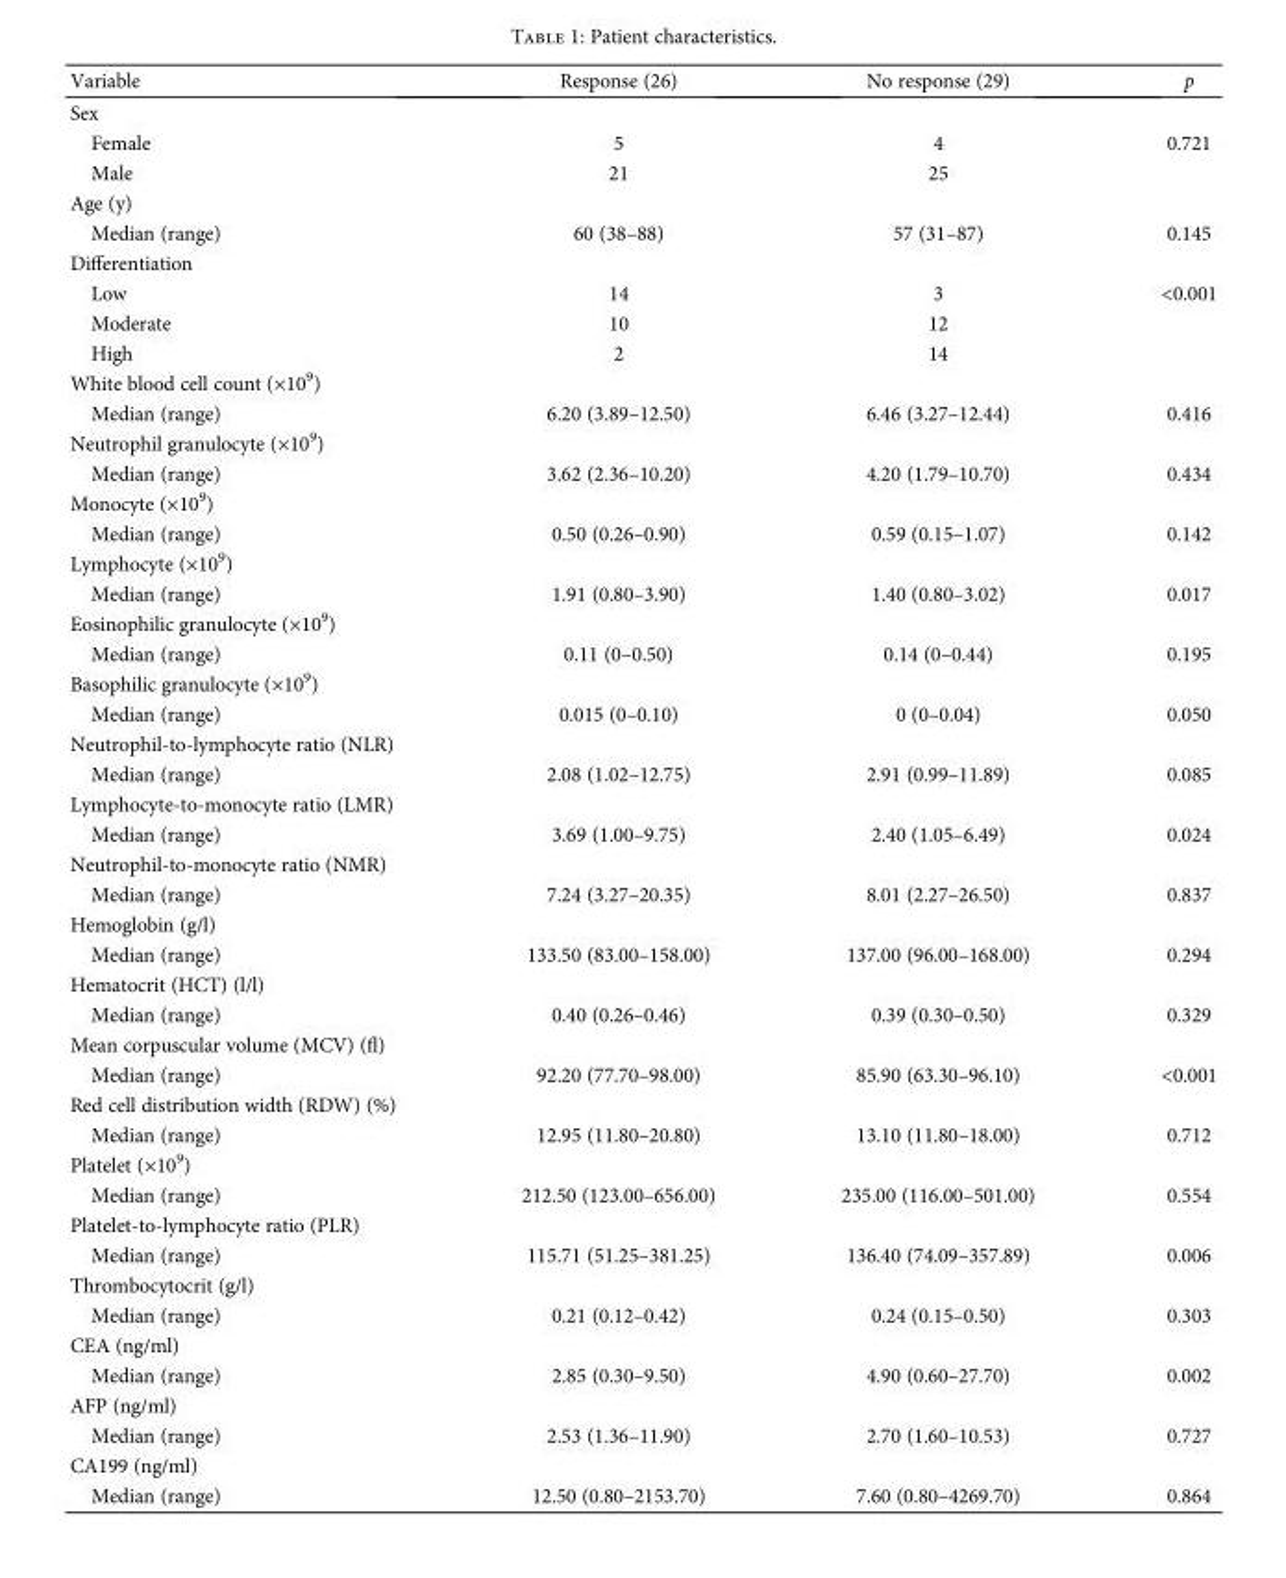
<table><thead><tr><td>Variable</td><td>Response (26)</td><td>No response (29)</td><td>p</td></tr></thead><tbody><tr><td colspan="4">Sex</td></tr><tr><td>Female</td><td>5</td><td>4</td><td>0.721</td></tr><tr><td>Male</td><td>21</td><td>25</td><td></td></tr><tr><td colspan="4">Age (y)</td></tr><tr><td>Median (range)</td><td>60 (38–88)</td><td>57 (31–87)</td><td>0.145</td></tr><tr><td colspan="4">Differentiation</td></tr><tr><td>Low</td><td>14</td><td>3</td><td>&lt;0.001</td></tr><tr><td>Moderate</td><td>10</td><td>12</td><td></td></tr><tr><td>High</td><td>2</td><td>14</td><td></td></tr><tr><td colspan="4">White blood cell count (×10<sup>9</sup>)</td></tr><tr><td>Median (range)</td><td>6.20 (3.89–12.50)</td><td>6.46 (3.27–12.44)</td><td>0.416</td></tr><tr><td colspan="4">Neutrophil granulocyte (×10<sup>9</sup>)</td></tr><tr><td>Median (range)</td><td>3.62 (2.36–10.20)</td><td>4.20 (1.79–10.70)</td><td>0.434</td></tr><tr><td colspan="4">Monocyte (×10<sup>9</sup>)</td></tr><tr><td>Median (range)</td><td>0.50 (0.26–0.90)</td><td>0.59 (0.15–1.07)</td><td>0.142</td></tr><tr><td colspan="4">Lymphocyte (×10<sup>9</sup>)</td></tr><tr><td>Median (range)</td><td>1.91 (0.80–3.90)</td><td>1.40 (0.80–3.02)</td><td>0.017</td></tr><tr><td colspan="4">Eosinophilic granulocyte (×10<sup>9</sup>)</td></tr><tr><td>Median (range)</td><td>0.11 (0–0.50)</td><td>0.14 (0–0.44)</td><td>0.195</td></tr><tr><td colspan="4">Basophilic granulocyte (×10<sup>9</sup>)</td></tr><tr><td>Median (range)</td><td>0.015 (0–0.10)</td><td>0 (0–0.04)</td><td>0.050</td></tr><tr><td colspan="4">Neutrophil-to-lymphocyte ratio (NLR)</td></tr><tr><td>Median (range)</td><td>2.08 (1.02–12.75)</td><td>2.91 (0.99–11.89)</td><td>0.085</td></tr><tr><td colspan="4">Lymphocyte-to-monocyte ratio (LMR)</td></tr><tr><td>Median (range)</td><td>3.69 (1.00–9.75)</td><td>2.40 (1.05–6.49)</td><td>0.024</td></tr><tr><td colspan="4">Neutrophil-to-monocyte ratio (NMR)</td></tr><tr><td>Median (range)</td><td>7.24 (3.27–20.35)</td><td>8.01 (2.27–26.50)</td><td>0.837</td></tr><tr><td colspan="4">Hemoglobin (g/l)</td></tr><tr><td>Median (range)</td><td>133.50 (83.00–158.00)</td><td>137.00 (96.00–168.00)</td><td>0.294</td></tr><tr><td colspan="4">Hematocrit (HCT) (l/l)</td></tr><tr><td>Median (range)</td><td>0.40 (0.26–0.46)</td><td>0.39 (0.30–0.50)</td><td>0.329</td></tr><tr><td colspan="4">Mean corpuscular volume (MCV) (fl)</td></tr><tr><td>Median (range)</td><td>92.20 (77.70–98.00)</td><td>85.90 (63.30–96.10)</td><td>&lt;0.001</td></tr><tr><td colspan="4">Red cell distribution width (RDW) (%)</td></tr><tr><td>Median (range)</td><td>12.95 (11.80–20.80)</td><td>13.10 (11.80–18.00)</td><td>0.712</td></tr><tr><td colspan="4">Platelet (×10<sup>9</sup>)</td></tr><tr><td>Median (range)</td><td>212.50 (123.00–656.00)</td><td>235.00 (116.00–501.00)</td><td>0.554</td></tr><tr><td colspan="4">Platelet-to-lymphocyte ratio (PLR)</td></tr><tr><td>Median (range)</td><td>115.71 (51.25–381.25)</td><td>136.40 (74.09–357.89)</td><td>0.006</td></tr><tr><td colspan="4">Thrombocytocrit (g/l)</td></tr><tr><td>Median (range)</td><td>0.21 (0.12–0.42)</td><td>0.24 (0.15–0.50)</td><td>0.303</td></tr><tr><td colspan="4">CEA (ng/ml)</td></tr><tr><td>Median (range)</td><td>2.85 (0.30–9.50)</td><td>4.90 (0.60–27.70)</td><td>0.002</td></tr><tr><td colspan="4">AFP (ng/ml)</td></tr><tr><td>Median (range)</td><td>2.53 (1.36–11.90)</td><td>2.70 (1.60–10.53)</td><td>0.727</td></tr><tr><td colspan="4">CA199 (ng/ml)</td></tr><tr><td>Median (range)</td><td>12.50 (0.80–2153.70)</td><td>7.60 (0.80–4269.70)</td><td>0.864</td></tr></tbody></table>